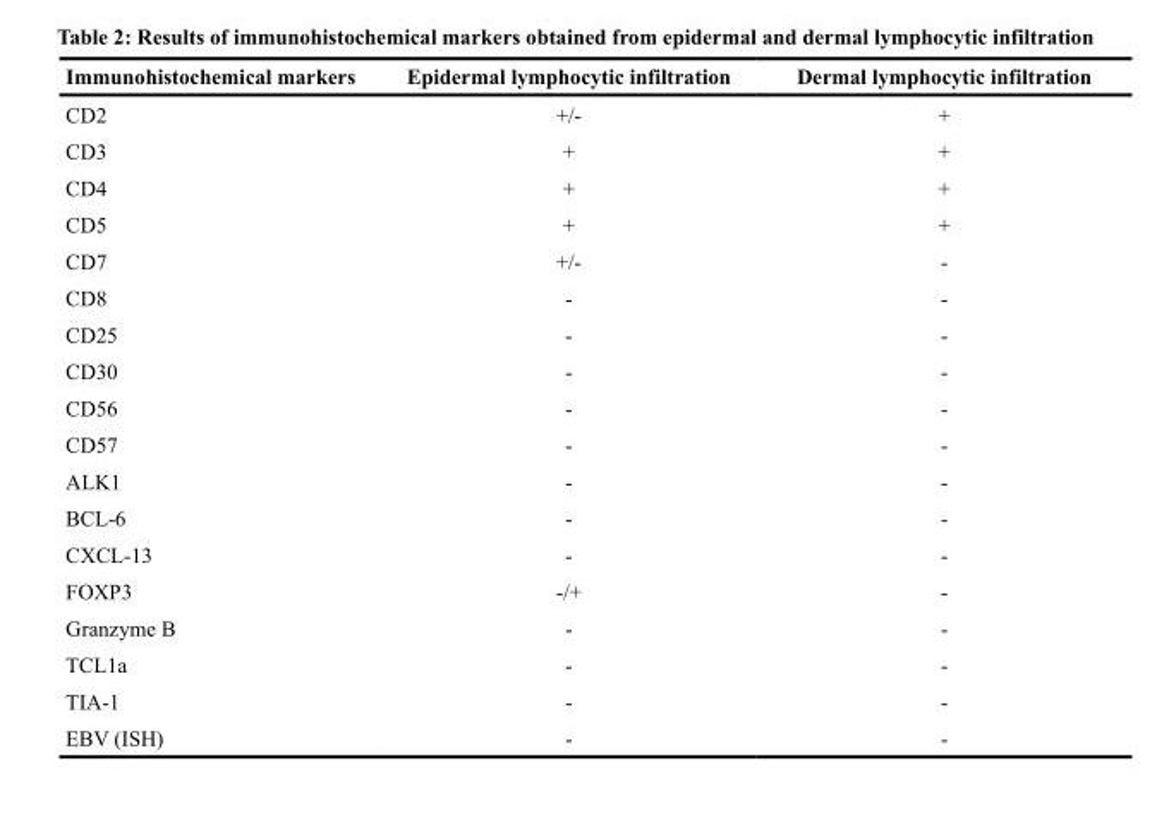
<table><thead><tr><td>Immunohistochemical markers</td><td>Epidermal lymphocytic infiltration</td><td>Dermal lymphocytic infiltration</td></tr></thead><tbody><tr><td>CD2</td><td>+/-</td><td>+</td></tr><tr><td>CD3</td><td>+</td><td>+</td></tr><tr><td>CD4</td><td>+</td><td>+</td></tr><tr><td>CD5</td><td>+</td><td>+</td></tr><tr><td>CD7</td><td>+/-</td><td>-</td></tr><tr><td>CD8</td><td>-</td><td>-</td></tr><tr><td>CD25</td><td>-</td><td>-</td></tr><tr><td>CD30</td><td>-</td><td>-</td></tr><tr><td>CD56</td><td>-</td><td>-</td></tr><tr><td>CD57</td><td>-</td><td>-</td></tr><tr><td>ALK1</td><td>-</td><td>-</td></tr><tr><td>BCL-6</td><td>-</td><td>-</td></tr><tr><td>CXCL-13</td><td>-</td><td>-</td></tr><tr><td>FOXP3</td><td>-/+</td><td>-</td></tr><tr><td>Granzyme B</td><td>-</td><td>-</td></tr><tr><td>TCL1a</td><td>-</td><td>-</td></tr><tr><td>TIA-1</td><td>-</td><td>-</td></tr><tr><td>EBV (ISH)</td><td>-</td><td>-</td></tr></tbody></table>